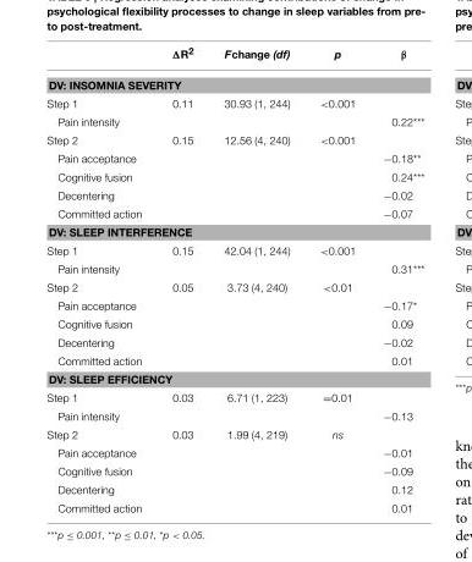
<table><thead><tr><td></td><td>ΔR<sup>2</sup></td><td>Fchange (df)</td><td>p</td><td>β</td></tr></thead><tbody><tr><td colspan="5">DV: INSOMNIA SEVERITY</td></tr><tr><td>Step 1</td><td>0.11</td><td>30.93 (1, 244)</td><td>&lt;0.001</td><td></td></tr><tr><td>Pain intensity</td><td></td><td></td><td></td><td>0.22***</td></tr><tr><td>Step 2</td><td>0.15</td><td>12.56 (4, 240)</td><td>&lt;0.001</td><td></td></tr><tr><td>Pain acceptance</td><td></td><td></td><td></td><td>−0.18**</td></tr><tr><td>Cognitive fusion</td><td></td><td></td><td></td><td>0.24***</td></tr><tr><td>Decentering</td><td></td><td></td><td></td><td>−0.02</td></tr><tr><td>Committed action</td><td></td><td></td><td></td><td>−0.07</td></tr><tr><td colspan="5">DV: SLEEP INTERFERENCE</td></tr><tr><td>Step 1</td><td>0.15</td><td>42.04 (1, 244)</td><td>&lt;0.001</td><td></td></tr><tr><td>Pain intensity</td><td></td><td></td><td></td><td>0.31***</td></tr><tr><td>Step 2</td><td>0.05</td><td>3.73 (4, 240)</td><td>&lt;0.01</td><td></td></tr><tr><td>Pain acceptance</td><td></td><td></td><td></td><td>−0.17*</td></tr><tr><td>Cognitive fusion</td><td></td><td></td><td></td><td>0.09</td></tr><tr><td>Decentering</td><td></td><td></td><td></td><td>−0.02</td></tr><tr><td>Committed action</td><td></td><td></td><td></td><td>0.01</td></tr><tr><td colspan="5">DV: SLEEP EFFICIENCY</td></tr><tr><td>Step 1</td><td>0.03</td><td>6.71 (1, 223)</td><td>=0.01</td><td></td></tr><tr><td>Pain intensity</td><td></td><td></td><td></td><td>−0.13</td></tr><tr><td>Step 2</td><td>0.03</td><td>1.99 (4, 219)</td><td>ns</td><td></td></tr><tr><td>Pain acceptance</td><td></td><td></td><td></td><td>−0.01</td></tr><tr><td>Cognitive fusion</td><td></td><td></td><td></td><td>−0.09</td></tr><tr><td>Decentering</td><td></td><td></td><td></td><td>0.12</td></tr><tr><td>Committed action</td><td></td><td></td><td></td><td>0.01</td></tr></tbody></table>